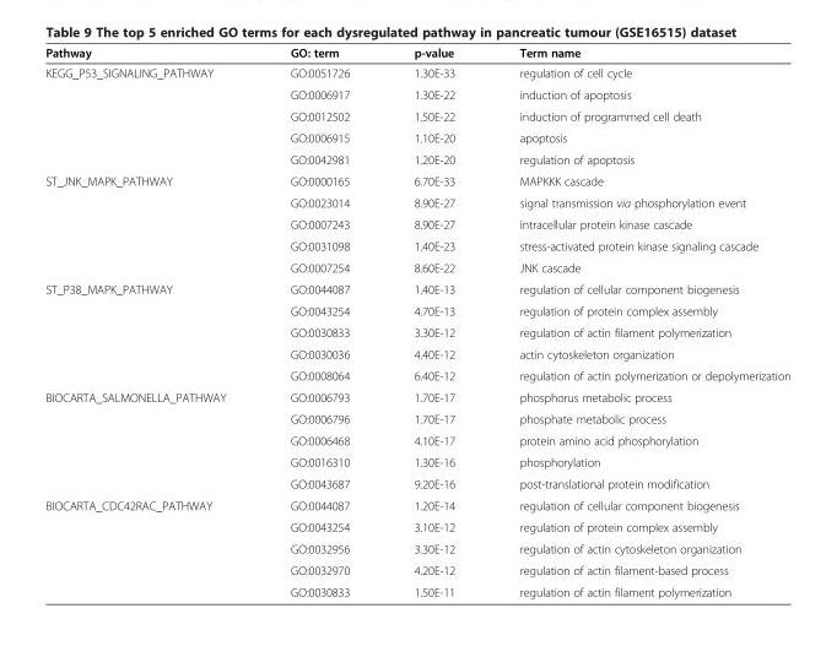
<table><thead><tr><td>Pathway</td><td>GO: term</td><td>p-value</td><td>Term name</td></tr></thead><tbody><tr><td rowspan="5">KEGG_P53_SIGNALING_PATHWAY</td><td>GO:0051726</td><td>1.30E-33</td><td>regulation of cell cycle</td></tr><tr><td>GO:0006917</td><td>1.30E-22</td><td>induction of apoptosis</td></tr><tr><td>GO:0012502</td><td>1.50E-22</td><td>induction of programmed cell death</td></tr><tr><td>GO:0006915</td><td>1.10E-20</td><td>apoptosis</td></tr><tr><td>GO:0042981</td><td>1.20E-20</td><td>regulation of apoptosis</td></tr><tr><td rowspan="5">ST_JNK_MAPK_PATHWAY</td><td>GO:0000165</td><td>6.70E-33</td><td>MAPKKK cascade</td></tr><tr><td>GO:0023014</td><td>8.90E-27</td><td>signal transmission via phosphorylation event</td></tr><tr><td>GO:0007243</td><td>8.90E-27</td><td>intracellular protein kinase cascade</td></tr><tr><td>GO:0031098</td><td>1.40E-23</td><td>stress-activated protein kinase signaling cascade</td></tr><tr><td>GO:0007254</td><td>8.60E-22</td><td>JNK cascade</td></tr><tr><td rowspan="5">ST_P38_MAPK_PATHWAY</td><td>GO:0044087</td><td>1.40E-13</td><td>regulation of cellular component biogenesis</td></tr><tr><td>GO:0043254</td><td>4.70E-13</td><td>regulation of protein complex assembly</td></tr><tr><td>GO:0030833</td><td>3.30E-12</td><td>regulation of actin filament polymerization</td></tr><tr><td>GO:0030036</td><td>4.40E-12</td><td>actin cytoskeleton organization</td></tr><tr><td>GO:0008064</td><td>6.40E-12</td><td>regulation of actin polymerization or depolymerization</td></tr><tr><td rowspan="5">BIOCARTA_SALMONELLA_PATHWAY</td><td>GO:0006793</td><td>1.70E-17</td><td>phosphorus metabolic process</td></tr><tr><td>GO:0006796</td><td>1.70E-17</td><td>phosphate metabolic process</td></tr><tr><td>GO:0006468</td><td>4.10E-17</td><td>protein amino acid phosphorylation</td></tr><tr><td>GO:0016310</td><td>1.30E-16</td><td>phosphorylation</td></tr><tr><td>GO:0043687</td><td>9.20E-16</td><td>post-translational protein modification</td></tr><tr><td rowspan="5">BIOCARTA_CDC42RAC_PATHWAY</td><td>GO:0044087</td><td>1.20E-14</td><td>regulation of cellular component biogenesis</td></tr><tr><td>GO:0043254</td><td>3.10E-12</td><td>regulation of protein complex assembly</td></tr><tr><td>GO:0032956</td><td>3.30E-12</td><td>regulation of actin cytoskeleton organization</td></tr><tr><td>GO:0032970</td><td>4.20E-12</td><td>regulation of actin filament-based process</td></tr><tr><td>GO:0030833</td><td>1.50E-11</td><td>regulation of actin filament polymerization</td></tr></tbody></table>